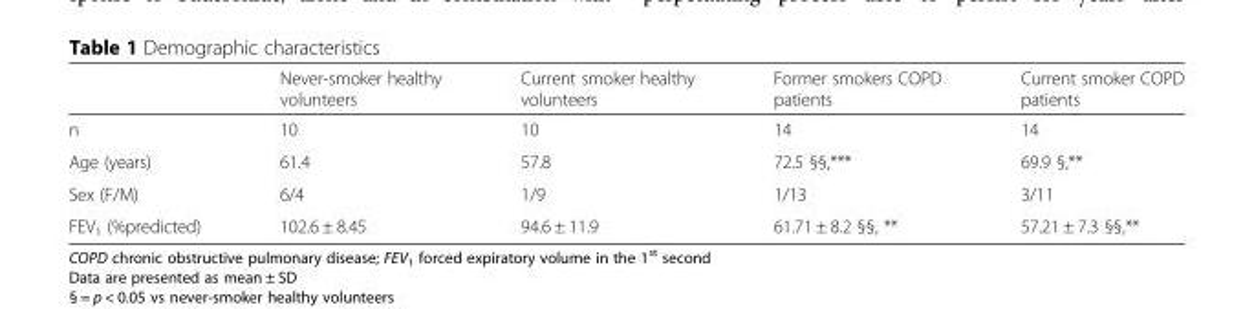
<table><thead><tr><td></td><td>Never-smoker healthy volunteers</td><td>Current smoker healthy volunteers</td><td>Former smokers COPD patients</td><td>Current smoker COPD patients</td></tr></thead><tbody><tr><td>n</td><td>10</td><td>10</td><td>14</td><td>14</td></tr><tr><td>Age (years)</td><td>61.4</td><td>57.8</td><td>72.5 §§,***</td><td>69.9 §,**</td></tr><tr><td>Sex (F/M)</td><td>6/4</td><td>1/9</td><td>1/13</td><td>3/11</td></tr><tr><td>FEV<sub>1</sub> (%predicted)</td><td>102.6 ± 8.45</td><td>94.6 ± 11.9</td><td>61.71 ± 8.2 §§, **</td><td>57.21 ± 7.3 §§,**</td></tr></tbody></table>